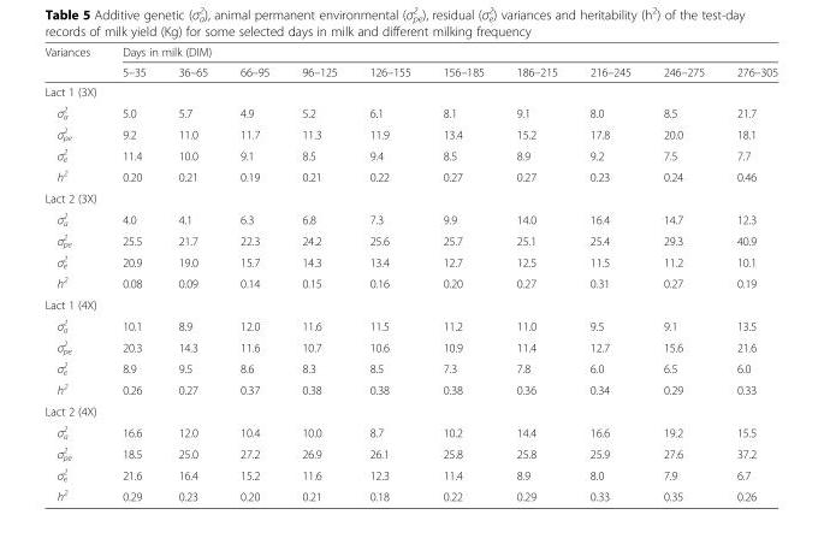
<table><thead><tr><td rowspan="2">Variances</td><td colspan="10">Days in milk (DIM)</td></tr><tr><td>5–35</td><td>36–65</td><td>66–95</td><td>96–125</td><td>126–155</td><td>156–185</td><td>186–215</td><td>216–245</td><td>246–275</td><td>276–305</td></tr></thead><tbody><tr><td colspan="11">Lact 1 (3X)</td></tr><tr><td>σ<sup>2</sup> <sub>a</sub></td><td>5.0</td><td>5.7</td><td>4.9</td><td>5.2</td><td>6.1</td><td>8.1</td><td>9.1</td><td>8.0</td><td>8.5</td><td>21.7</td></tr><tr><td>σ<sup>2</sup> <sub>pe</sub></td><td>9.2</td><td>11.0</td><td>11.7</td><td>11.3</td><td>11.9</td><td>13.4</td><td>15.2</td><td>17.8</td><td>20.0</td><td>18.1</td></tr><tr><td>σ<sup>2</sup> <sub>e</sub></td><td>11.4</td><td>10.0</td><td>9.1</td><td>8.5</td><td>9.4</td><td>8.5</td><td>8.9</td><td>9.2</td><td>7.5</td><td>7.7</td></tr><tr><td>h<sup>2</sup></td><td>0.20</td><td>0.21</td><td>0.19</td><td>0.21</td><td>0.22</td><td>0.27</td><td>0.27</td><td>0.23</td><td>0.24</td><td>0.46</td></tr><tr><td colspan="11">Lact 2 (3X)</td></tr><tr><td>σ<sup>2</sup> <sub>a</sub></td><td>4.0</td><td>4.1</td><td>6.3</td><td>6.8</td><td>7.3</td><td>9.9</td><td>14.0</td><td>16.4</td><td>14.7</td><td>12.3</td></tr><tr><td>σ<sup>2</sup> <sub>pe</sub></td><td>25.5</td><td>21.7</td><td>22.3</td><td>24.2</td><td>25.6</td><td>25.7</td><td>25.1</td><td>25.4</td><td>29.3</td><td>40.9</td></tr><tr><td>σ<sup>2</sup> <sub>e</sub></td><td>20.9</td><td>19.0</td><td>15.7</td><td>14.3</td><td>13.4</td><td>12.7</td><td>12.5</td><td>11.5</td><td>11.2</td><td>10.1</td></tr><tr><td>h<sup>2</sup></td><td>0.08</td><td>0.09</td><td>0.14</td><td>0.15</td><td>0.16</td><td>0.20</td><td>0.27</td><td>0.31</td><td>0.27</td><td>0.19</td></tr><tr><td colspan="11">Lact 1 (4X)</td></tr><tr><td>σ<sup>2</sup> <sub>a</sub></td><td>10.1</td><td>8.9</td><td>12.0</td><td>11.6</td><td>11.5</td><td>11.2</td><td>11.0</td><td>9.5</td><td>9.1</td><td>13.5</td></tr><tr><td>σ<sup>2</sup> <sub>pe</sub></td><td>20.3</td><td>14.3</td><td>11.6</td><td>10.7</td><td>10.6</td><td>10.9</td><td>11.4</td><td>12.7</td><td>15.6</td><td>21.6</td></tr><tr><td>σ<sup>2</sup> <sub>e</sub></td><td>8.9</td><td>9.5</td><td>8.6</td><td>8.3</td><td>8.5</td><td>7.3</td><td>7.8</td><td>6.0</td><td>6.5</td><td>6.0</td></tr><tr><td>h<sup>2</sup></td><td>0.26</td><td>0.27</td><td>0.37</td><td>0.38</td><td>0.38</td><td>0.38</td><td>0.36</td><td>0.34</td><td>0.29</td><td>0.33</td></tr><tr><td colspan="11">Lact 2 (4X)</td></tr><tr><td>σ<sup>2</sup> <sub>a</sub></td><td>16.6</td><td>12.0</td><td>10.4</td><td>10.0</td><td>8.7</td><td>10.2</td><td>14.4</td><td>16.6</td><td>19.2</td><td>15.5</td></tr><tr><td>σ<sup>2</sup> <sub>pe</sub></td><td>18.5</td><td>25.0</td><td>27.2</td><td>26.9</td><td>26.1</td><td>25.8</td><td>25.8</td><td>25.9</td><td>27.6</td><td>37.2</td></tr><tr><td>σ<sup>2</sup> <sub>e</sub></td><td>21.6</td><td>16.4</td><td>15.2</td><td>11.6</td><td>12.3</td><td>11.4</td><td>8.9</td><td>8.0</td><td>7.9</td><td>6.7</td></tr><tr><td>h<sup>2</sup></td><td>0.29</td><td>0.23</td><td>0.20</td><td>0.21</td><td>0.18</td><td>0.22</td><td>0.29</td><td>0.33</td><td>0.35</td><td>0.26</td></tr></tbody></table>